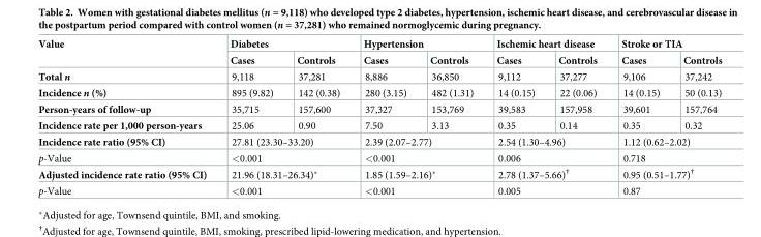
<table><thead><tr><td rowspan="2">Value</td><td colspan="2">Diabetes</td><td colspan="2">Hypertension</td><td colspan="2">Ischemic heart disease</td><td colspan="2">Stroke or TIA</td></tr><tr><td>Cases</td><td>Controls</td><td>Cases</td><td>Controls</td><td>Cases</td><td>Controls</td><td>Cases</td><td>Controls</td></tr></thead><tbody><tr><td>Total n</td><td>9,118</td><td>37,281</td><td>8,886</td><td>36,850</td><td>9,112</td><td>37,277</td><td>9,106</td><td>37,242</td></tr><tr><td>Incidence n (%)</td><td>895 (9.82)</td><td>142 (0.38)</td><td>280 (3.15)</td><td>482 (1.31)</td><td>14 (0.15)</td><td>22 (0.06)</td><td>14 (0.15)</td><td>50 (0.13)</td></tr><tr><td>Person-years of follow-up</td><td>35,715</td><td>157,600</td><td>37,327</td><td>153,769</td><td>39,583</td><td>157,958</td><td>39,601</td><td>157,764</td></tr><tr><td>Incidence rate per 1,000 person-years</td><td>25.06</td><td>0.90</td><td>7.50</td><td>3.13</td><td>0.35</td><td>0.14</td><td>0.35</td><td>0.32</td></tr><tr><td>Incidence rate ratio (95% CI)</td><td colspan="2">27.81 (23.30–33.20)</td><td colspan="2">2.39 (2.07–2.77)</td><td colspan="2">2.54 (1.30–4.96)</td><td colspan="2">1.12 (0.62–2.02)</td></tr><tr><td>p-Value</td><td colspan="2">&lt;0.001</td><td colspan="2">&lt;0.001</td><td colspan="2">0.006</td><td colspan="2">0.718</td></tr><tr><td>Adjusted incidence rate ratio (95% CI)</td><td colspan="2">21.96 (18.31–26.34)*</td><td colspan="2">1.85 (1.59–2.16)*</td><td colspan="2">2.78 (1.37–5.66)<sup>†</sup></td><td colspan="2">0.95 (0.51–1.77)<sup>†</sup></td></tr><tr><td>p-Value</td><td colspan="2">&lt;0.001</td><td colspan="2">&lt;0.001</td><td colspan="2">0.005</td><td colspan="2">0.87</td></tr></tbody></table>